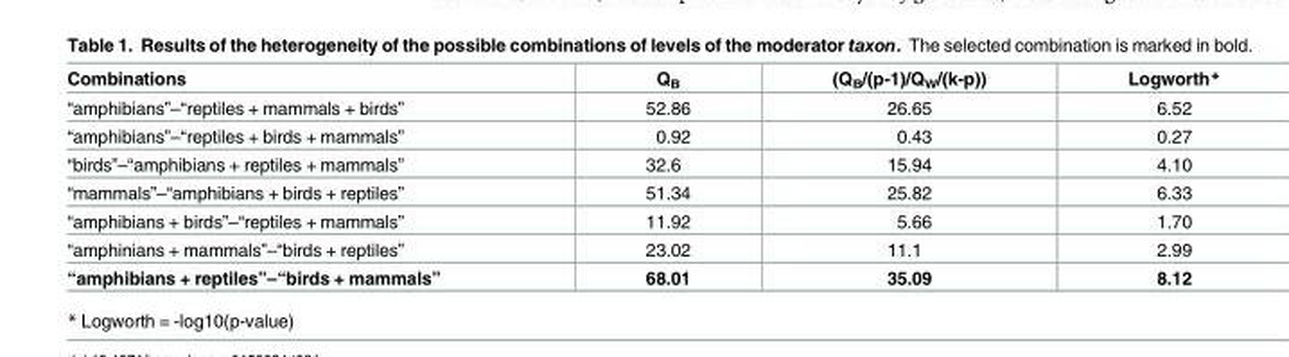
<table><thead><tr><td>Combinations</td><td>Q<sub>B</sub></td><td>(Q<sub>B</sub>/(p-1)/Q<sub>W</sub>/(k-p))</td><td>Logworth*</td></tr></thead><tbody><tr><td>“amphibians”–“reptiles + mammals + birds”</td><td>52.86</td><td>26.65</td><td>6.52</td></tr><tr><td>“amphibians”–“reptiles + birds + mammals”</td><td>0.92</td><td>0.43</td><td>0.27</td></tr><tr><td>“birds”–“amphibians + reptiles + mammals”</td><td>32.6</td><td>15.94</td><td>4.10</td></tr><tr><td>“mammals”–“amphibians + birds + reptiles”</td><td>51.34</td><td>25.82</td><td>6.33</td></tr><tr><td>“amphibians + birds”–“reptiles + mammals”</td><td>11.92</td><td>5.66</td><td>1.70</td></tr><tr><td>“amphinians + mammals”–“birds + reptiles”</td><td>23.02</td><td>11.1</td><td>2.99</td></tr><tr><td>“amphibians + reptiles”–“birds + mammals”</td><td>68.01</td><td>35.09</td><td>8.12</td></tr></tbody></table>